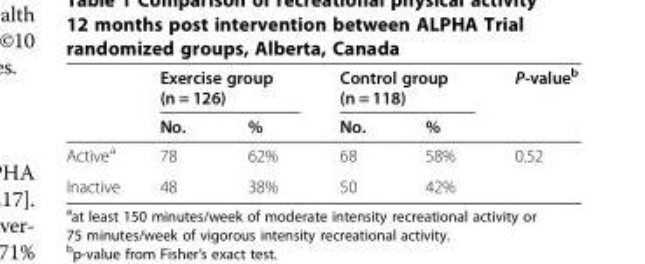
<table><thead><tr><td rowspan="2"></td><td colspan="2">Exercise group (n = 126)</td><td colspan="2">Control group (n = 118)</td><td rowspan="2">P-value<sup>b</sup></td></tr><tr><td>No.</td><td>%</td><td>No.</td><td>%</td></tr></thead><tbody><tr><td>Active<sup>a</sup></td><td>78</td><td>62%</td><td>68</td><td>58%</td><td rowspan="2">0.52</td></tr><tr><td>Inactive</td><td>48</td><td>38%</td><td>50</td><td>42%</td></tr></tbody></table>